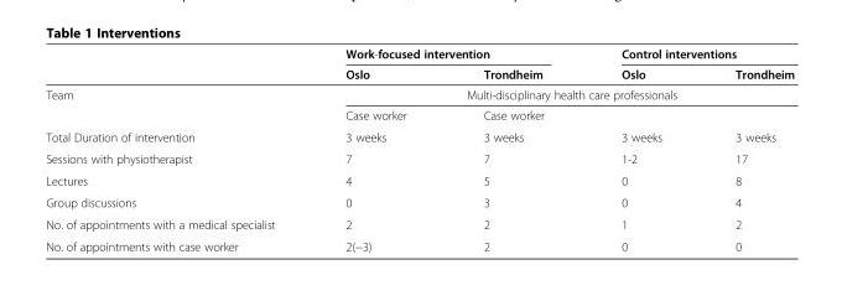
<table><thead><tr><td rowspan="2"></td><td colspan="2">Work-focused intervention</td><td colspan="2">Control interventions</td></tr><tr><td>Oslo</td><td>Trondheim</td><td>Oslo</td><td>Trondheim</td></tr></thead><tbody><tr><td rowspan="2">Team</td><td colspan="4">Multi-disciplinary health care professionals</td></tr><tr><td>Case worker</td><td>Case worker</td><td></td><td></td></tr><tr><td>Total Duration of intervention</td><td>3 weeks</td><td>3 weeks</td><td>3 weeks</td><td>3 weeks</td></tr><tr><td>Sessions with physiotherapist</td><td>7</td><td>7</td><td>1-2</td><td>17</td></tr><tr><td>Lectures</td><td>4</td><td>5</td><td>0</td><td>8</td></tr><tr><td>Group discussions</td><td>0</td><td>3</td><td>0</td><td>4</td></tr><tr><td>No. of appointments with a medical specialist</td><td>2</td><td>2</td><td>1</td><td>2</td></tr><tr><td>No. of appointments with case worker</td><td>2(−3)</td><td>2</td><td>0</td><td>0</td></tr></tbody></table>